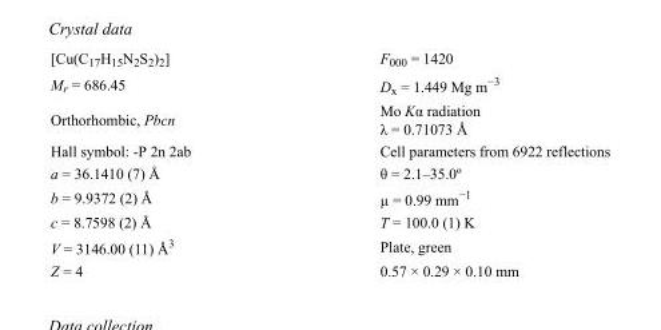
<table><tbody><tr><td>[Cu(C<sub>17</sub>H<sub>15</sub>N<sub>2</sub>S<sub>2</sub>)<sub>2</sub>]</td><td>F<sub>000</sub> = 1420</td></tr><tr><td>M<sub>r</sub> = 686.45</td><td>D<sub>x</sub> = 1.449 Mg m<sup>−3</sup></td></tr><tr><td>Orthorhombic, Pbcn</td><td>Mo Kα radiation λ = 0.71073 Å</td></tr><tr><td>Hall symbol: -P 2n 2ab</td><td>Cell parameters from 6922 reflections</td></tr><tr><td>a = 36.1410 (7) Å</td><td>θ = 2.1–35.0º</td></tr><tr><td>b = 9.9372 (2) Å</td><td>µ = 0.99 mm<sup>−1</sup></td></tr><tr><td>c = 8.7598 (2) Å</td><td>T = 100.0 (1) K</td></tr><tr><td>V = 3146.00 (11) Å<sup>3</sup></td><td>Plate, green</td></tr><tr><td>Z = 4</td><td>0.57 × 0.29 × 0.10 mm</td></tr></tbody></table>